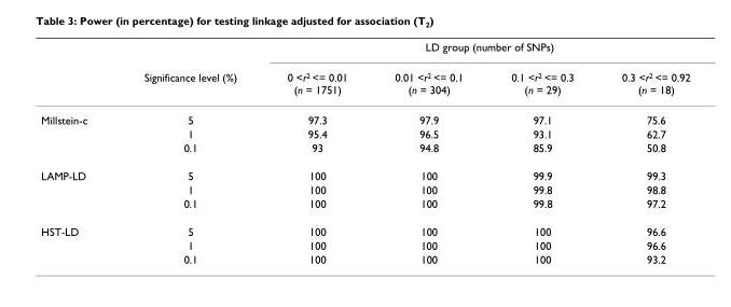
<table><thead><tr><td rowspan="2"></td><td rowspan="2">Significance level (%)</td><td colspan="4">LD group (number of SNPs)</td></tr><tr><td>0 &lt;r<sup>2</sup> &lt;= 0.01 (n = 1751)</td><td>0.01 &lt;r<sup>2</sup> &lt;= 0.1 (n = 304)</td><td>0.1 &lt;r<sup>2</sup> &lt;= 0.3 (n = 29)</td><td>0.3 &lt;r<sup>2</sup> &lt;= 0.92 (n = 18)</td></tr></thead><tbody><tr><td rowspan="3">Millstein-c</td><td>5</td><td>97.3</td><td>97.9</td><td>97.1</td><td>75.6</td></tr><tr><td>1</td><td>95.4</td><td>96.5</td><td>93.1</td><td>62.7</td></tr><tr><td>0.1</td><td>93</td><td>94.8</td><td>85.9</td><td>50.8</td></tr><tr><td rowspan="3">LAMP-LD</td><td>5</td><td>100</td><td>100</td><td>99.9</td><td>99.3</td></tr><tr><td>1</td><td>100</td><td>100</td><td>99.8</td><td>98.8</td></tr><tr><td>0.1</td><td>100</td><td>100</td><td>99.8</td><td>97.2</td></tr><tr><td rowspan="3">HST-LD</td><td>5</td><td>100</td><td>100</td><td>100</td><td>96.6</td></tr><tr><td>1</td><td>100</td><td>100</td><td>100</td><td>96.6</td></tr><tr><td>0.1</td><td>100</td><td>100</td><td>100</td><td>93.2</td></tr></tbody></table>